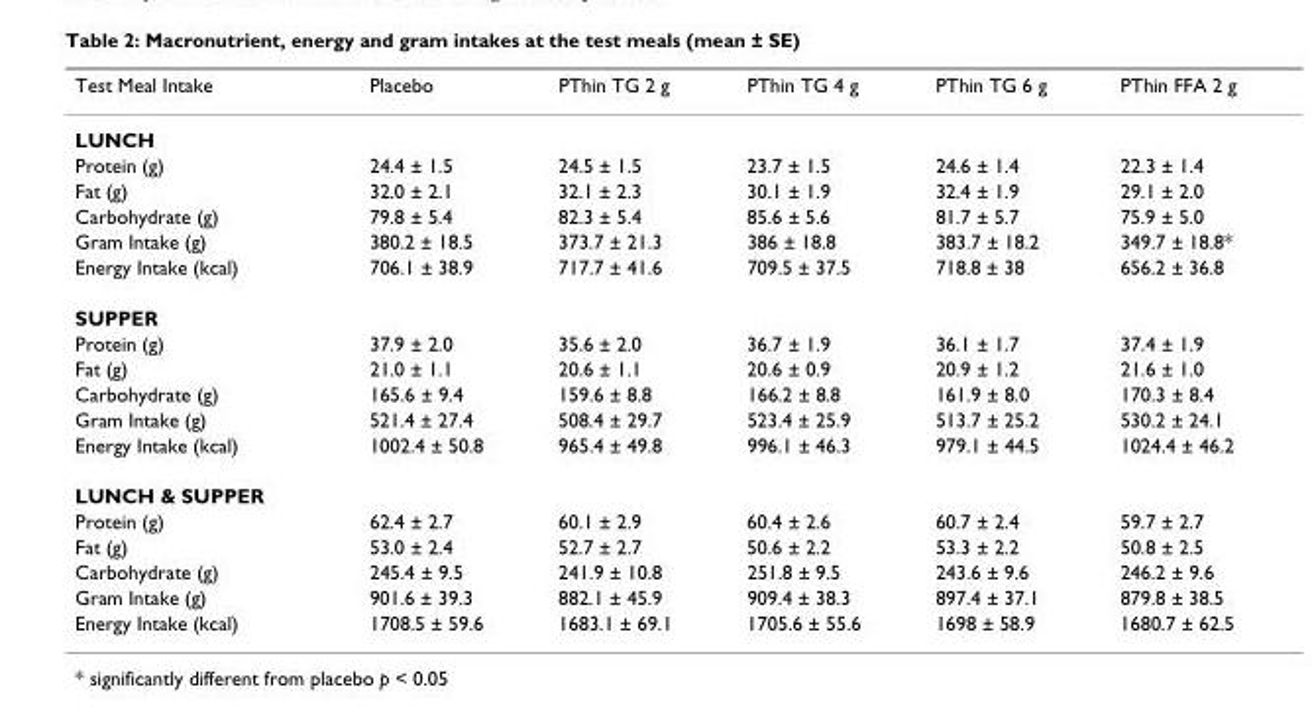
<table><thead><tr><td>Test Meal Intake</td><td>Placebo</td><td>PThin TG 2 g</td><td>PThin TG 4 g</td><td>PThin TG 6 g</td><td>PThin FFA 2 g</td></tr></thead><tbody><tr><td colspan="6">LUNCH</td></tr><tr><td>Protein (g)</td><td>24.4 ± 1.5</td><td>24.5 ± 1.5</td><td>23.7 ± 1.5</td><td>24.6 ± 1.4</td><td>22.3 ± 1.4</td></tr><tr><td>Fat (g)</td><td>32.0 ± 2.1</td><td>32.1 ± 2.3</td><td>30.1 ± 1.9</td><td>32.4 ± 1.9</td><td>29.1 ± 2.0</td></tr><tr><td>Carbohydrate (g)</td><td>79.8 ± 5.4</td><td>82.3 ± 5.4</td><td>85.6 ± 5.6</td><td>81.7 ± 5.7</td><td>75.9 ± 5.0</td></tr><tr><td>Gram Intake (g)</td><td>380.2 ± 18.5</td><td>373.7 ± 21.3</td><td>386 ± 18.8</td><td>383.7 ± 18.2</td><td>349.7 ± 18.8*</td></tr><tr><td>Energy Intake (kcal)</td><td>706.1 ± 38.9</td><td>717.7 ± 41.6</td><td>709.5 ± 37.5</td><td>718.8 ± 38</td><td>656.2 ± 36.8</td></tr><tr><td colspan="6">SUPPER</td></tr><tr><td>Protein (g)</td><td>37.9 ± 2.0</td><td>35.6 ± 2.0</td><td>36.7 ± 1.9</td><td>36.1 ± 1.7</td><td>37.4 ± 1.9</td></tr><tr><td>Fat (g)</td><td>21.0 ± 1.1</td><td>20.6 ± 1.1</td><td>20.6 ± 0.9</td><td>20.9 ± 1.2</td><td>21.6 ± 1.0</td></tr><tr><td>Carbohydrate (g)</td><td>165.6 ± 9.4</td><td>159.6 ± 8.8</td><td>166.2 ± 8.8</td><td>161.9 ± 8.0</td><td>170.3 ± 8.4</td></tr><tr><td>Gram Intake (g)</td><td>521.4 ± 27.4</td><td>508.4 ± 29.7</td><td>523.4 ± 25.9</td><td>513.7 ± 25.2</td><td>530.2 ± 24.1</td></tr><tr><td>Energy Intake (kcal)</td><td>1002.4 ± 50.8</td><td>965.4 ± 49.8</td><td>996.1 ± 46.3</td><td>979.1 ± 44.5</td><td>1024.4 ± 46.2</td></tr><tr><td colspan="6">LUNCH &amp; SUPPER</td></tr><tr><td>Protein (g)</td><td>62.4 ± 2.7</td><td>60.1 ± 2.9</td><td>60.4 ± 2.6</td><td>60.7 ± 2.4</td><td>59.7 ± 2.7</td></tr><tr><td>Fat (g)</td><td>53.0 ± 2.4</td><td>52.7 ± 2.7</td><td>50.6 ± 2.2</td><td>53.3 ± 2.2</td><td>50.8 ± 2.5</td></tr><tr><td>Carbohydrate (g)</td><td>245.4 ± 9.5</td><td>241.9 ± 10.8</td><td>251.8 ± 9.5</td><td>243.6 ± 9.6</td><td>246.2 ± 9.6</td></tr><tr><td>Gram Intake (g)</td><td>901.6 ± 39.3</td><td>882.1 ± 45.9</td><td>909.4 ± 38.3</td><td>897.4 ± 37.1</td><td>879.8 ± 38.5</td></tr><tr><td>Energy Intake (kcal)</td><td>1708.5 ± 59.6</td><td>1683.1 ± 69.1</td><td>1705.6 ± 55.6</td><td>1698 ± 58.9</td><td>1680.7 ± 62.5</td></tr></tbody></table>